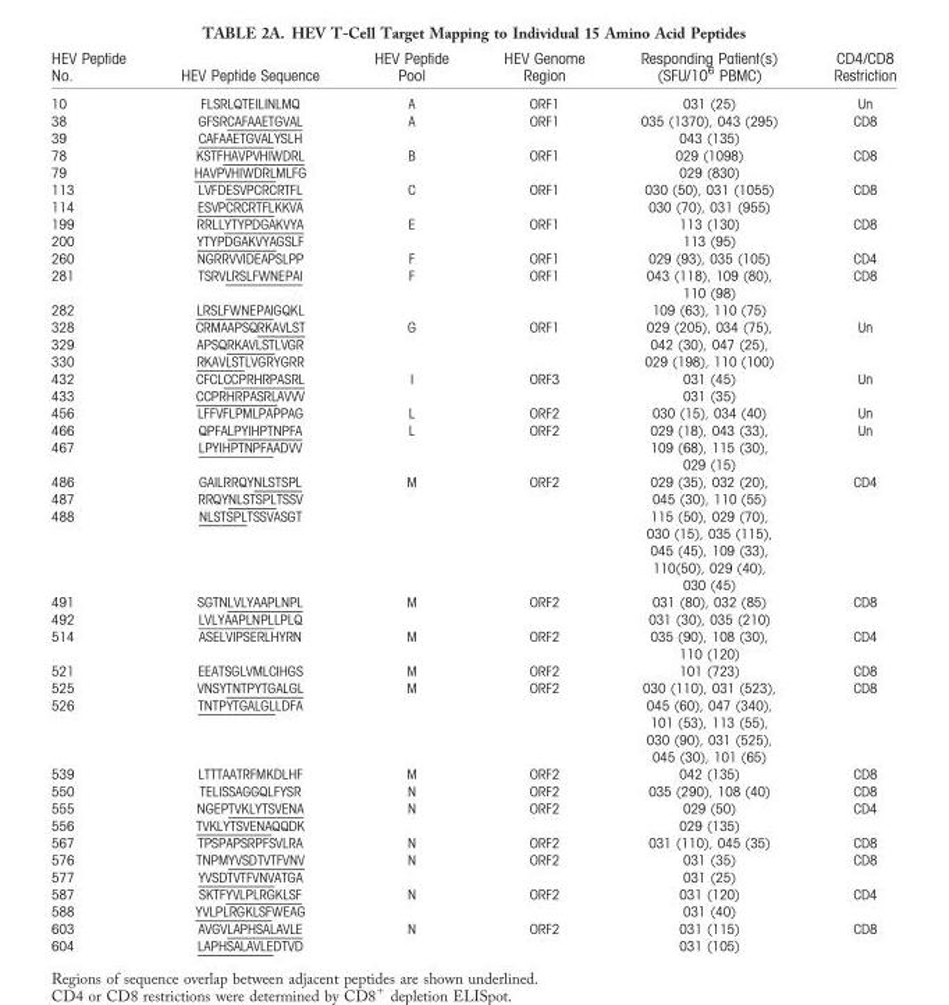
<table><thead><tr><td>HEV Peptide No.</td><td>HEV Peptide Sequence</td><td>HEV Peptide Pool</td><td>HEV Genome Region</td><td>Responding Patient(s) (SFU/10<sup>6</sup> PBMC)</td><td>CD4/CD8 Restriction</td></tr></thead><tbody><tr><td>10</td><td>FLSRLQTEILINLMQ</td><td>A</td><td>ORF1</td><td>031 (25)</td><td>Un</td></tr><tr><td>38</td><td>GFSRCAFAAETGVAL</td><td rowspan="2">A</td><td rowspan="2">ORF1</td><td>035 (1370), 043 (295)</td><td rowspan="2">CD8</td></tr><tr><td>39</td><td>CAFAAETGVALYSLH</td><td>043 (135)</td></tr><tr><td>78</td><td>KSTFHAVPVHIWDRL</td><td rowspan="2">B</td><td rowspan="2">ORF1</td><td>029 (1098)</td><td rowspan="2">CD8</td></tr><tr><td>79</td><td>HAVPVHIWDRLMLFG</td><td>029 (830)</td></tr><tr><td>113</td><td>LVFDESVPCRCRTFL</td><td rowspan="2">C</td><td rowspan="2">ORF1</td><td>030 (50), 031 (1055)</td><td rowspan="2">CD8</td></tr><tr><td>114</td><td>ESVPCRCRTFLKKVA</td><td>030 (70), 031 (955)</td></tr><tr><td>199</td><td>RRLLYTYPDGAKVYA</td><td rowspan="2">E</td><td rowspan="2">ORF1</td><td>113 (130)</td><td rowspan="2">CD8</td></tr><tr><td>200</td><td>YTYPDGAKVYAGSLF</td><td>113 (95)</td></tr><tr><td>260</td><td>NGRRVVIDEAPSLPP</td><td>F</td><td>ORF1</td><td>029 (93), 035 (105)</td><td>CD4</td></tr><tr><td>281</td><td>TSRVLRSLFWNEPAI</td><td rowspan="2">F</td><td rowspan="2">ORF1</td><td>043 (118), 109 (80), 110 (98)</td><td rowspan="2">CD8</td></tr><tr><td>282</td><td>LRSLFWNEPAIGQKL</td><td>109 (63), 110 (75)</td></tr><tr><td>328</td><td>CRMAAPSQRKAVLST</td><td rowspan="3">G</td><td rowspan="3">ORF1</td><td rowspan="3">029 (205), 034 (75), 042 (30), 047 (25), 029 (198), 110 (100)</td><td rowspan="3">Un</td></tr><tr><td>329</td><td>APSQRKAVLSTLVGR</td></tr><tr><td>330</td><td>RKAVLSTLVGRYGRR</td></tr><tr><td>432</td><td>CFCLCCPRHRPASRL</td><td rowspan="2">I</td><td rowspan="2">ORF3</td><td>031 (45)</td><td rowspan="2">Un</td></tr><tr><td>433</td><td>CCPRHRPASRLAVVV</td><td>031 (35)</td></tr><tr><td>456</td><td>LFFVFLPMLPAPPAG</td><td>L</td><td>ORF2</td><td>030 (15), 034 (40)</td><td>Un</td></tr><tr><td>466</td><td>QPFALPYIHPTNPFA</td><td rowspan="2">L</td><td rowspan="2">ORF2</td><td rowspan="2">029 (18), 043 (33), 109 (68), 115 (30), 029 (15)</td><td rowspan="2">Un</td></tr><tr><td>467</td><td>LPYIHPTNPFAADVV</td></tr><tr><td>486</td><td>GAILRRQYNLSTSPL</td><td rowspan="3">M</td><td rowspan="3">ORF2</td><td rowspan="3">029 (35), 032 (20), 045 (30), 110 (55) 115 (50), 029 (70), 030 (15), 035 (115), 045 (45), 109 (33), 110(50), 029 (40), 030 (45)</td><td rowspan="3">CD4</td></tr><tr><td>487</td><td>RRQYNLSTSPLTSSV</td></tr><tr><td>488</td><td>NLSTSPLTSSVASGT</td></tr><tr><td>491</td><td>SGTNLVLYAAPLNPL</td><td rowspan="2">M</td><td rowspan="2">ORF2</td><td>031 (80), 032 (85)</td><td rowspan="2">CD8</td></tr><tr><td>492</td><td>LVLYAAPLNPLLPLQ</td><td>031 (30), 035 (210)</td></tr><tr><td>514</td><td>ASELVIPSERLHYRN</td><td>M</td><td>ORF2</td><td>035 (90), 108 (30), 110 (120)</td><td>CD4</td></tr><tr><td>521</td><td>EEATSGLVMLCIHGS</td><td>M</td><td>ORF2</td><td>101 (723)</td><td>CD8</td></tr><tr><td>525</td><td>VNSYTNTPYTGALGL</td><td rowspan="2">M</td><td rowspan="2">ORF2</td><td rowspan="2">030 (110), 031 (523), 045 (60), 047 (340), 101 (53), 113 (55), 030 (90), 031 (525), 045 (30), 101 (65)</td><td rowspan="2">CD8</td></tr><tr><td>526</td><td>TNTPYTGALGLLDFA</td></tr><tr><td>539</td><td>LTTTAATRFMKDLHF</td><td>M</td><td>ORF2</td><td>042 (135)</td><td>CD8</td></tr><tr><td>550</td><td>TELISSAGGQLFYSR</td><td>N</td><td>ORF2</td><td>035 (290), 108 (40)</td><td>CD8</td></tr><tr><td>555</td><td>NGEPTVKLYTSVENA</td><td rowspan="2">N</td><td rowspan="2">ORF2</td><td>029 (50)</td><td rowspan="2">CD4</td></tr><tr><td>556</td><td>TVKLYTSVENAQQDK</td><td>029 (135)</td></tr><tr><td>567</td><td>TPSPAPSRPFSVLRA</td><td>N</td><td>ORF2</td><td>031 (110), 045 (35)</td><td>CD8</td></tr><tr><td>576</td><td>TNPMYVSDTVTFVNV</td><td rowspan="2">N</td><td rowspan="2">ORF2</td><td>031 (35)</td><td rowspan="2">CD8</td></tr><tr><td>577</td><td>YVSDTVTFVNVATGA</td><td>031 (25)</td></tr><tr><td>587</td><td>SKTFYVLPLRGKLSF</td><td rowspan="2">N</td><td rowspan="2">ORF2</td><td>031 (120)</td><td rowspan="2">CD4</td></tr><tr><td>588</td><td>YVLPLRGKLSFWEAG</td><td>031 (40)</td></tr><tr><td>603</td><td>AVGVLAPHSALAVLE</td><td rowspan="2">N</td><td rowspan="2">ORF2</td><td>031 (115)</td><td rowspan="2">CD8</td></tr><tr><td>604</td><td>LAPHSALAVLEDTVD</td><td>031 (105)</td></tr></tbody></table>